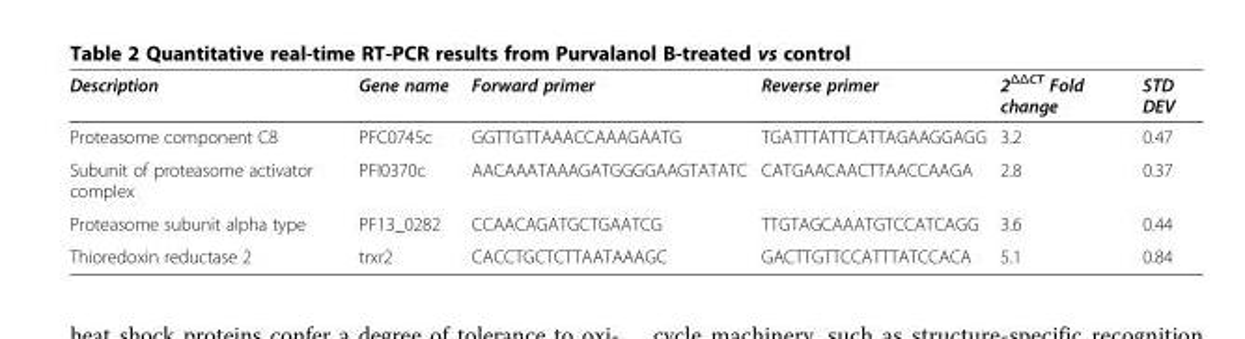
<table><thead><tr><td>Description</td><td>Gene name</td><td>Forward primer</td><td>Reverse primer</td><td>2<sup>ΔΔCT</sup> Fold change</td><td>STD DEV</td></tr></thead><tbody><tr><td>Proteasome component C8</td><td>PFC0745c</td><td>GGTTGTTAAACCAAAGAATG</td><td>TGATTTATTCATTAGAAGGAGG</td><td>3.2</td><td>0.47</td></tr><tr><td>Subunit of proteasome activator complex</td><td>PFI0370c</td><td>AACAAATAAAGATGGGGAAGTATATC</td><td>CATGAACAACTTAACCAAGA</td><td>2.8</td><td>0.37</td></tr><tr><td>Proteasome subunit alpha type</td><td>PF13_0282</td><td>CCAACAGATGCTGAATCG</td><td>TTGTAGCAAATGTCCATCAGG</td><td>3.6</td><td>0.44</td></tr><tr><td>Thioredoxin reductase 2</td><td>trxr2</td><td>CACCTGCTCTTAATAAAGC</td><td>GACTTGTTCCATTTATCCACA</td><td>5.1</td><td>0.84</td></tr></tbody></table>